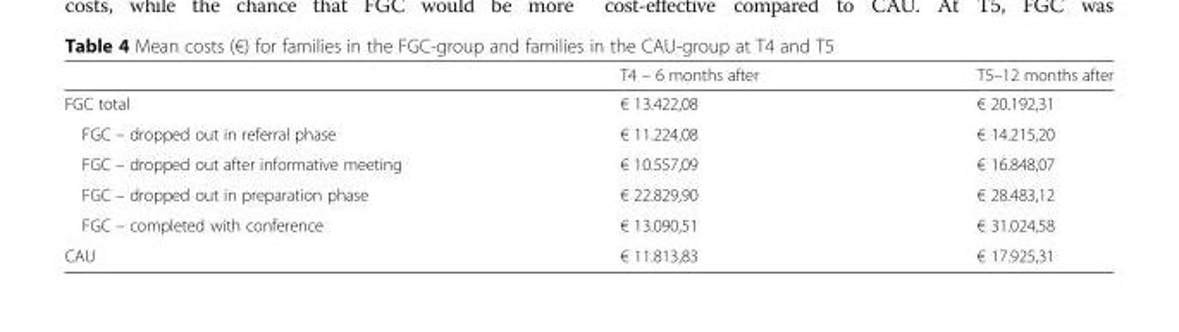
<table><thead><tr><td></td><td>T4 – 6 months after</td><td>T5–12 months after</td></tr></thead><tbody><tr><td>FGC total</td><td>€ 13.422,08</td><td>€ 20.192,31</td></tr><tr><td>FGC – dropped out in referral phase</td><td>€ 11.224,08</td><td>€ 14.215,20</td></tr><tr><td>FGC – dropped out after informative meeting</td><td>€ 10.557,09</td><td>€ 16.848,07</td></tr><tr><td>FGC – dropped out in preparation phase</td><td>€ 22.829,90</td><td>€ 28.483,12</td></tr><tr><td>FGC – completed with conference</td><td>€ 13.090,51</td><td>€ 31.024,58</td></tr><tr><td>CAU</td><td>€ 11.813,83</td><td>€ 17.925,31</td></tr></tbody></table>